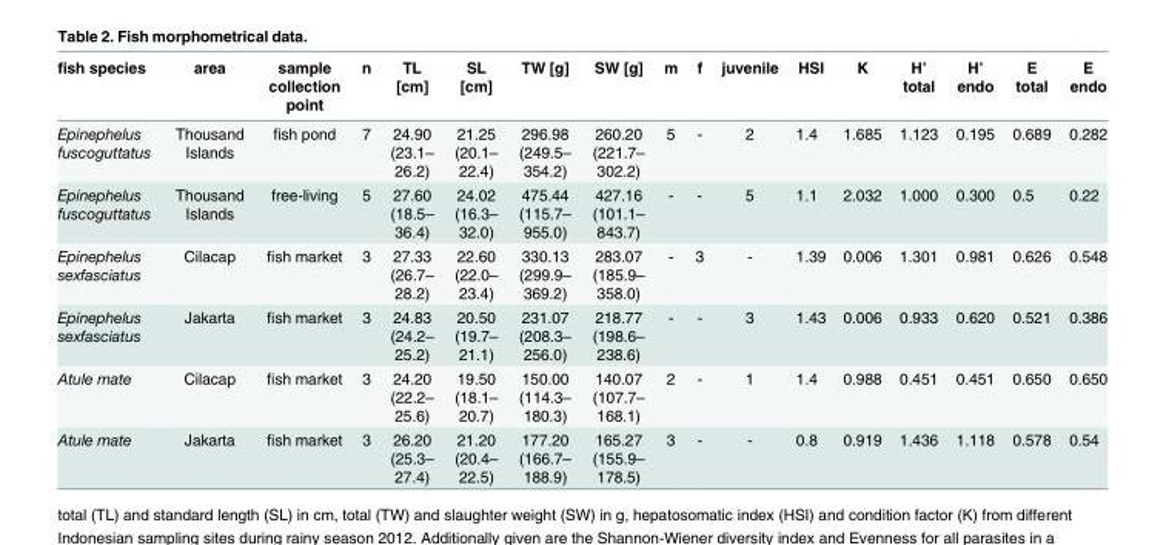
<table><thead><tr><td>fish species</td><td>area</td><td>sample collection point</td><td>n</td><td>TL [cm]</td><td>SL [cm]</td><td>TW [g]</td><td>SW [g]</td><td>m</td><td>f</td><td>juvenile</td><td>HSI</td><td>K</td><td>H’ total</td><td>H’ endo</td><td>E total</td><td>E endo</td></tr></thead><tbody><tr><td>Epinephelus fuscoguttatus</td><td>Thousand Islands</td><td>fish pond</td><td>7</td><td>24.90 (23.1– 26.2)</td><td>21.25 (20.1– 22.4)</td><td>296.98 (249.5– 354.2)</td><td>260.20 (221.7– 302.2)</td><td>5</td><td>-</td><td>2</td><td>1.4</td><td>1.685</td><td>1.123</td><td>0.195</td><td>0.689</td><td>0.282</td></tr><tr><td>Epinephelus fuscoguttatus</td><td>Thousand Islands</td><td>free-living</td><td>5</td><td>27.60 (18.5– 36.4)</td><td>24.02 (16.3– 32.0)</td><td>475.44 (115.7– 955.0)</td><td>427.16 (101.1– 843.7)</td><td>-</td><td>-</td><td>5</td><td>1.1</td><td>2.032</td><td>1.000</td><td>0.300</td><td>0.5</td><td>0.22</td></tr><tr><td>Epinephelus sexfasciatus</td><td>Cilacap</td><td>fish market</td><td>3</td><td>27.33 (26.7– 28.2)</td><td>22.60 (22.0– 23.4)</td><td>330.13 (299.9– 369.2)</td><td>283.07 (185.9– 358.0)</td><td>-</td><td>3</td><td>-</td><td>1.39</td><td>0.006</td><td>1.301</td><td>0.981</td><td>0.626</td><td>0.548</td></tr><tr><td>Epinephelus sexfasciatus</td><td>Jakarta</td><td>fish market</td><td>3</td><td>24.83 (24.2– 25.2)</td><td>20.50 (19.7– 21.1)</td><td>231.07 (208.3– 256.0)</td><td>218.77 (198.6– 238.6)</td><td>-</td><td>-</td><td>3</td><td>1.43</td><td>0.006</td><td>0.933</td><td>0.620</td><td>0.521</td><td>0.386</td></tr><tr><td>Atule mate</td><td>Cilacap</td><td>fish market</td><td>3</td><td>24.20 (22.2– 25.6)</td><td>19.50 (18.1– 20.7)</td><td>150.00 (114.3– 180.3)</td><td>140.07 (107.7– 168.1)</td><td>2</td><td>-</td><td>1</td><td>1.4</td><td>0.988</td><td>0.451</td><td>0.451</td><td>0.650</td><td>0.650</td></tr><tr><td>Atule mate</td><td>Jakarta</td><td>fish market</td><td>3</td><td>26.20 (25.3– 27.4)</td><td>21.20 (20.4– 22.5)</td><td>177.20 (166.7– 188.9)</td><td>165.27 (155.9– 178.5)</td><td>3</td><td>-</td><td>-</td><td>0.8</td><td>0.919</td><td>1.436</td><td>1.118</td><td>0.578</td><td>0.54</td></tr></tbody></table>